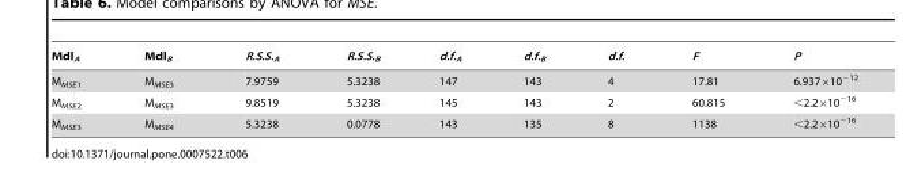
<table><thead><tr><td>Mdl<sub>A</sub></td><td>Mdl<sub>B</sub></td><td>R.S.S.<sub>A</sub></td><td>R.S.S.<sub>B</sub></td><td>d.f.<sub>A</sub></td><td>d.f.<sub>B</sub></td><td>d.f.</td><td>F</td><td>P</td></tr></thead><tbody><tr><td>M<sub>MSE1</sub></td><td>M<sub>MSE3</sub></td><td>7.9759</td><td>5.3238</td><td>147</td><td>143</td><td>4</td><td>17.81</td><td>6.937×10<sup>−12</sup></td></tr><tr><td>M<sub>MSE2</sub></td><td>M<sub>MSE3</sub></td><td>9.8519</td><td>5.3238</td><td>145</td><td>143</td><td>2</td><td>60.815</td><td>&lt;2.2×10<sup>−16</sup></td></tr><tr><td>M<sub>MSE3</sub></td><td>M<sub>MSE4</sub></td><td>5.3238</td><td>0.0778</td><td>143</td><td>135</td><td>8</td><td>1138</td><td>&lt;2.2×10<sup>−16</sup></td></tr></tbody></table>